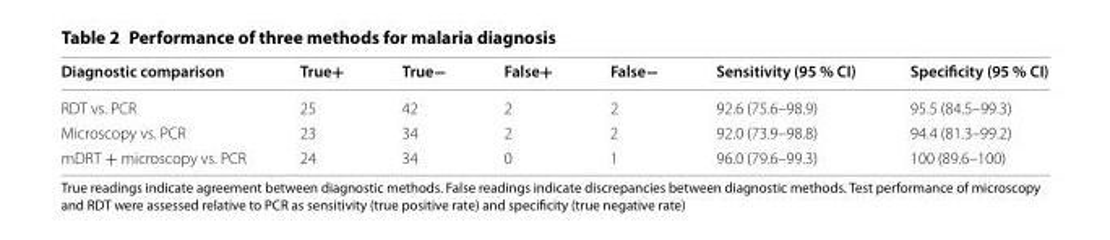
<table><thead><tr><td>Diagnostic comparison</td><td>True+</td><td>True−</td><td>False+</td><td>False−</td><td>Sensitivity (95 % CI)</td><td>Specificity (95 % CI)</td></tr></thead><tbody><tr><td>RDT vs. PCR</td><td>25</td><td>42</td><td>2</td><td>2</td><td>92.6 (75.6–98.9)</td><td>95.5 (84.5–99.3)</td></tr><tr><td>Microscopy vs. PCR</td><td>23</td><td>34</td><td>2</td><td>2</td><td>92.0 (73.9–98.8)</td><td>94.4 (81.3–99.2)</td></tr><tr><td>mDRT + microscopy vs. PCR</td><td>24</td><td>34</td><td>0</td><td>1</td><td>96.0 (79.6–99.3)</td><td>100 (89.6–100)</td></tr></tbody></table>